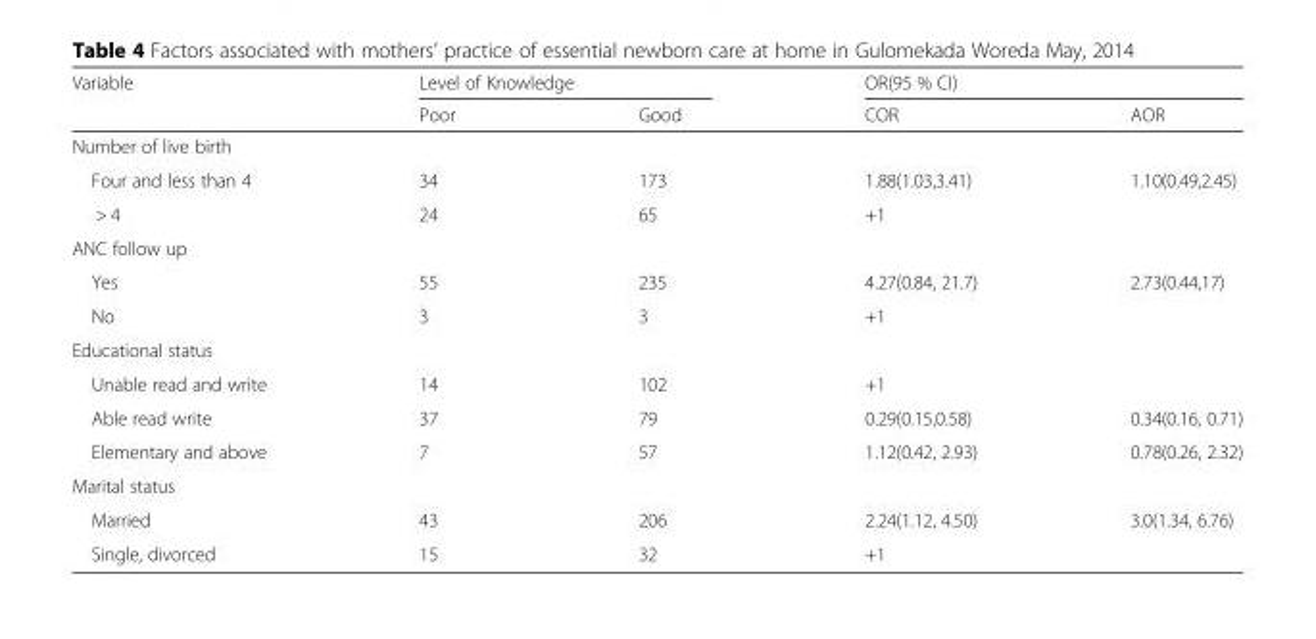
<table><thead><tr><td rowspan="2">Variable</td><td colspan="2">Level of Knowledge</td><td colspan="2">OR(95 % CI)</td></tr><tr><td>Poor</td><td>Good</td><td>COR</td><td>AOR</td></tr></thead><tbody><tr><td colspan="5">Number of live birth</td></tr><tr><td>Four and less than 4</td><td>34</td><td>173</td><td>1.88(1.03,3.41)</td><td rowspan="2">1.10(0.49,2.45)</td></tr><tr><td>&gt; 4</td><td>24</td><td>65</td><td>+1</td></tr><tr><td colspan="5">ANC follow up</td></tr><tr><td>Yes</td><td>55</td><td>235</td><td>4.27(0.84, 21.7)</td><td rowspan="2">2.73(0.44,17)</td></tr><tr><td>No</td><td>3</td><td>3</td><td>+1</td></tr><tr><td colspan="5">Educational status</td></tr><tr><td>Unable read and write</td><td>14</td><td>102</td><td>+1</td><td></td></tr><tr><td>Able read write</td><td>37</td><td>79</td><td>0.29(0.15,0.58)</td><td>0.34(0.16, 0.71)</td></tr><tr><td>Elementary and above</td><td>7</td><td>57</td><td>1.12(0.42, 2.93)</td><td>0.78(0.26, 2.32)</td></tr><tr><td colspan="5">Marital status</td></tr><tr><td>Married</td><td>43</td><td>206</td><td>2.24(1.12, 4.50)</td><td rowspan="2">3.0(1.34, 6.76)</td></tr><tr><td>Single, divorced</td><td>15</td><td>32</td><td>+1</td></tr></tbody></table>